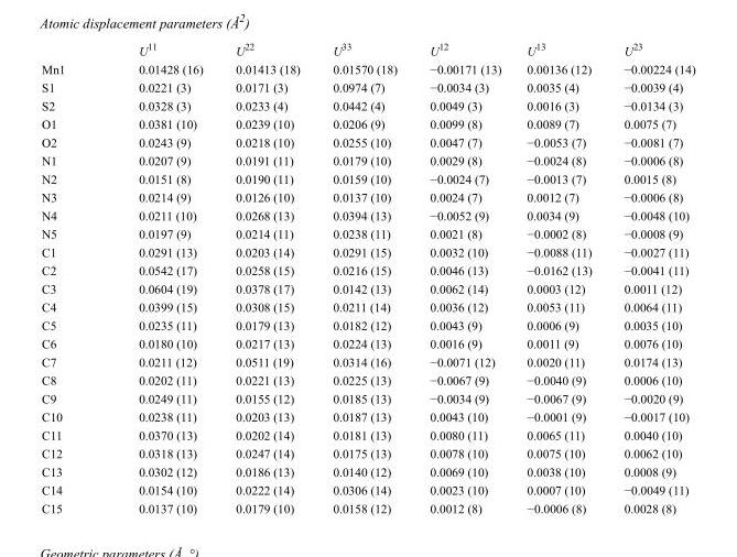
<table><thead><tr><td></td><td>U<sup>11</sup></td><td>U<sup>22</sup></td><td>U<sup>33</sup></td><td>U<sup>12</sup></td><td>U<sup>13</sup></td><td>U<sup>23</sup></td></tr></thead><tbody><tr><td>Mn1</td><td>0.01428 (16)</td><td>0.01413 (18)</td><td>0.01570 (18)</td><td>−0.00171 (13)</td><td>0.00136 (12)</td><td>−0.00224 (14)</td></tr><tr><td>S1</td><td>0.0221 (3)</td><td>0.0171 (3)</td><td>0.0974 (7)</td><td>−0.0034 (3)</td><td>0.0035 (4)</td><td>−0.0039 (4)</td></tr><tr><td>S2</td><td>0.0328 (3)</td><td>0.0233 (4)</td><td>0.0442 (4)</td><td>0.0049 (3)</td><td>0.0016 (3)</td><td>−0.0134 (3)</td></tr><tr><td>O1</td><td>0.0381 (10)</td><td>0.0239 (10)</td><td>0.0206 (9)</td><td>0.0099 (8)</td><td>0.0089 (7)</td><td>0.0075 (7)</td></tr><tr><td>O2</td><td>0.0243 (9)</td><td>0.0218 (10)</td><td>0.0255 (10)</td><td>0.0047 (7)</td><td>−0.0053 (7)</td><td>−0.0081 (7)</td></tr><tr><td>N1</td><td>0.0207 (9)</td><td>0.0191 (11)</td><td>0.0179 (10)</td><td>0.0029 (8)</td><td>−0.0024 (8)</td><td>−0.0006 (8)</td></tr><tr><td>N2</td><td>0.0151 (8)</td><td>0.0190 (11)</td><td>0.0159 (10)</td><td>−0.0024 (7)</td><td>−0.0013 (7)</td><td>0.0015 (8)</td></tr><tr><td>N3</td><td>0.0214 (9)</td><td>0.0126 (10)</td><td>0.0137 (10)</td><td>0.0024 (7)</td><td>0.0012 (7)</td><td>−0.0006 (8)</td></tr><tr><td>N4</td><td>0.0211 (10)</td><td>0.0268 (13)</td><td>0.0394 (13)</td><td>−0.0052 (9)</td><td>0.0034 (9)</td><td>−0.0048 (10)</td></tr><tr><td>N5</td><td>0.0197 (9)</td><td>0.0214 (11)</td><td>0.0238 (11)</td><td>0.0021 (8)</td><td>−0.0002 (8)</td><td>−0.0008 (9)</td></tr><tr><td>C1</td><td>0.0291 (13)</td><td>0.0203 (14)</td><td>0.0291 (15)</td><td>0.0032 (10)</td><td>−0.0088 (11)</td><td>−0.0027 (11)</td></tr><tr><td>C2</td><td>0.0542 (17)</td><td>0.0258 (15)</td><td>0.0216 (15)</td><td>0.0046 (13)</td><td>−0.0162 (13)</td><td>−0.0041 (11)</td></tr><tr><td>C3</td><td>0.0604 (19)</td><td>0.0378 (17)</td><td>0.0142 (13)</td><td>0.0062 (14)</td><td>0.0003 (12)</td><td>0.0011 (12)</td></tr><tr><td>C4</td><td>0.0399 (15)</td><td>0.0308 (15)</td><td>0.0211 (14)</td><td>0.0036 (12)</td><td>0.0053 (11)</td><td>0.0064 (11)</td></tr><tr><td>C5</td><td>0.0235 (11)</td><td>0.0179 (13)</td><td>0.0182 (12)</td><td>0.0043 (9)</td><td>0.0006 (9)</td><td>0.0035 (10)</td></tr><tr><td>C6</td><td>0.0180 (10)</td><td>0.0217 (13)</td><td>0.0224 (13)</td><td>0.0016 (9)</td><td>0.0011 (9)</td><td>0.0076 (10)</td></tr><tr><td>C7</td><td>0.0211 (12)</td><td>0.0511 (19)</td><td>0.0314 (16)</td><td>−0.0071 (12)</td><td>0.0020 (11)</td><td>0.0174 (13)</td></tr><tr><td>C8</td><td>0.0202 (11)</td><td>0.0221 (13)</td><td>0.0225 (13)</td><td>−0.0067 (9)</td><td>−0.0040 (9)</td><td>0.0006 (10)</td></tr><tr><td>C9</td><td>0.0249 (11)</td><td>0.0155 (12)</td><td>0.0185 (13)</td><td>−0.0034 (9)</td><td>−0.0067 (9)</td><td>−0.0020 (9)</td></tr><tr><td>C10</td><td>0.0238 (11)</td><td>0.0203 (13)</td><td>0.0187 (13)</td><td>0.0043 (10)</td><td>−0.0001 (9)</td><td>−0.0017 (10)</td></tr><tr><td>C11</td><td>0.0370 (13)</td><td>0.0202 (14)</td><td>0.0181 (13)</td><td>0.0080 (11)</td><td>0.0065 (11)</td><td>0.0040 (10)</td></tr><tr><td>C12</td><td>0.0318 (13)</td><td>0.0247 (14)</td><td>0.0175 (13)</td><td>0.0078 (10)</td><td>0.0075 (10)</td><td>0.0062 (10)</td></tr><tr><td>C13</td><td>0.0302 (12)</td><td>0.0186 (13)</td><td>0.0140 (12)</td><td>0.0069 (10)</td><td>0.0038 (10)</td><td>0.0008 (9)</td></tr><tr><td>C14</td><td>0.0154 (10)</td><td>0.0222 (14)</td><td>0.0306 (14)</td><td>0.0023 (10)</td><td>0.0007 (10)</td><td>−0.0049 (11)</td></tr><tr><td>C15</td><td>0.0137 (10)</td><td>0.0179 (10)</td><td>0.0158 (12)</td><td>0.0012 (8)</td><td>−0.0006 (8)</td><td>0.0028 (8)</td></tr></tbody></table>